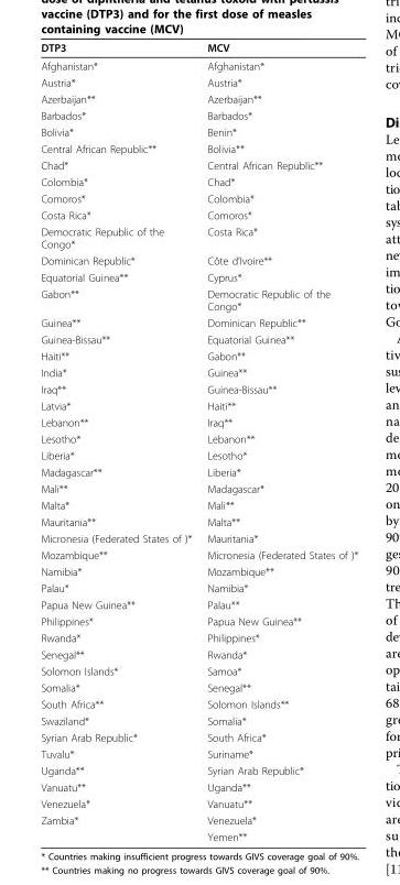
<table><thead><tr><td>DTP3</td><td>MCV</td></tr></thead><tbody><tr><td>Afghanistan*</td><td>Afghanistan*</td></tr><tr><td>Austria*</td><td>Austria*</td></tr><tr><td>Azerbaijan**</td><td>Azerbaijan**</td></tr><tr><td>Barbados*</td><td>Barbados*</td></tr><tr><td>Bolivia*</td><td>Benin*</td></tr><tr><td>Central African Republic**</td><td>Bolivia**</td></tr><tr><td>Chad*</td><td>Central African Republic**</td></tr><tr><td>Colombia*</td><td>Chad*</td></tr><tr><td>Comoros*</td><td>Colombia*</td></tr><tr><td>Costa Rica*</td><td>Comoros*</td></tr><tr><td>Democratic Republic of the Congo*</td><td>Costa Rica*</td></tr><tr><td>Dominican Republic*</td><td>Côte d’Ivoire**</td></tr><tr><td>Equatorial Guinea**</td><td>Cyprus*</td></tr><tr><td>Gabon**</td><td>Democratic Republic of the Congo*</td></tr><tr><td>Guinea**</td><td>Dominican Republic**</td></tr><tr><td>Guinea-Bissau**</td><td>Equatorial Guinea**</td></tr><tr><td>Haiti**</td><td>Gabon**</td></tr><tr><td>India*</td><td>Guinea**</td></tr><tr><td>Iraq**</td><td>Guinea-Bissau**</td></tr><tr><td>Latvia*</td><td>Haiti**</td></tr><tr><td>Lebanon**</td><td>Iraq**</td></tr><tr><td>Lesotho*</td><td>Lebanon**</td></tr><tr><td>Liberia*</td><td>Lesotho*</td></tr><tr><td>Madagascar**</td><td>Liberia*</td></tr><tr><td>Mali**</td><td>Madagascar*</td></tr><tr><td>Malta*</td><td>Mali**</td></tr><tr><td>Mauritania**</td><td>Malta**</td></tr><tr><td>Micronesia (Federated States of )*</td><td>Mauritania*</td></tr><tr><td>Mozambique**</td><td>Micronesia (Federated States of )*</td></tr><tr><td>Namibia*</td><td>Mozambique**</td></tr><tr><td>Palau*</td><td>Namibia*</td></tr><tr><td>Papua New Guinea**</td><td>Palau**</td></tr><tr><td>Philippines*</td><td>Papua New Guinea**</td></tr><tr><td>Rwanda*</td><td>Philippines*</td></tr><tr><td>Senegal**</td><td>Rwanda*</td></tr><tr><td>Solomon Islands*</td><td>Samoa*</td></tr><tr><td>Somalia*</td><td>Senegal**</td></tr><tr><td>South Africa**</td><td>Solomon Islands**</td></tr><tr><td>Swaziland*</td><td>Somalia*</td></tr><tr><td>Syrian Arab Republic*</td><td>South Africa*</td></tr><tr><td>Tuvalu*</td><td>Suriname*</td></tr><tr><td>Uganda**</td><td>Syrian Arab Republic*</td></tr><tr><td>Vanuatu**</td><td>Uganda**</td></tr><tr><td>Venezuela*</td><td>Vanuatu**</td></tr><tr><td rowspan="2">Zambia*</td><td>Venezuela*</td></tr><tr><td>Yemen**</td></tr></tbody></table>